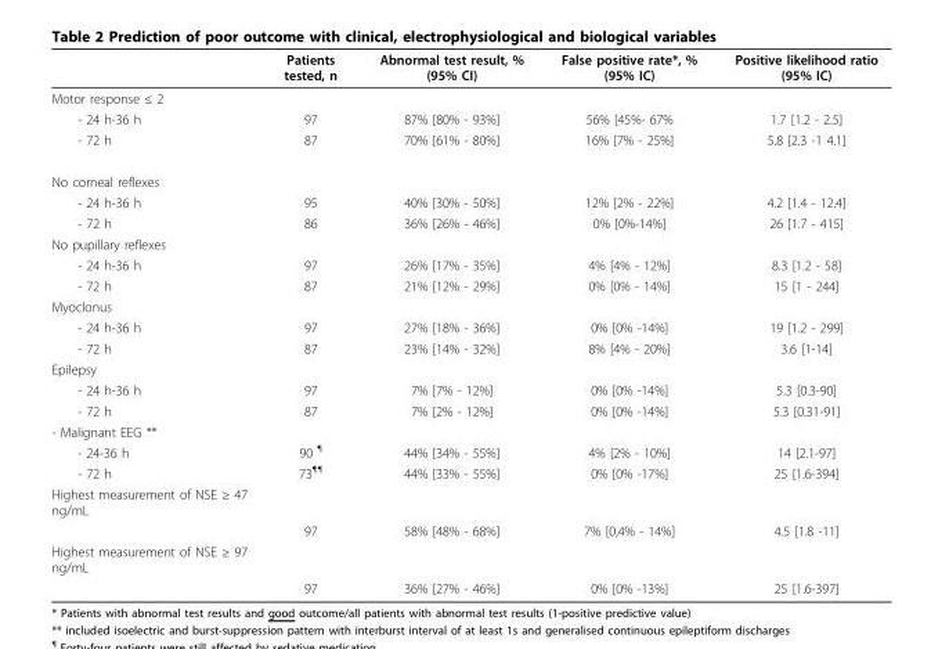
<table><thead><tr><td></td><td>Patients tested, n</td><td>Abnormal test result, % (95% CI)</td><td>False positive rate*, % (95% IC)</td><td>Positive likelihood ratio (95% IC)</td></tr></thead><tbody><tr><td colspan="5">Motor response ≤ 2</td></tr><tr><td>- 24 h-36 h</td><td>97</td><td>87% [80% - 93%]</td><td>56% [45%- 67%</td><td>1.7 [1.2 - 2.5]</td></tr><tr><td>- 72 h</td><td>87</td><td>70% [61% - 80%]</td><td>16% [7% - 25%]</td><td>5.8 [2.3 -1 4.1]</td></tr><tr><td colspan="5">No corneal reflexes</td></tr><tr><td>- 24 h-36 h</td><td>95</td><td>40% [30% - 50%]</td><td>12% [2% - 22%]</td><td>4.2 [1.4 - 12.4]</td></tr><tr><td>- 72 h</td><td>86</td><td>36% [26% - 46%]</td><td>0% [0%-14%]</td><td>26 [1.7 - 415]</td></tr><tr><td colspan="5">No pupillary reflexes</td></tr><tr><td>- 24 h-36 h</td><td>97</td><td>26% [17% - 35%]</td><td>4% [4% - 12%]</td><td>8.3 [1.2 - 58]</td></tr><tr><td>- 72 h</td><td>87</td><td>21% [12% - 29%]</td><td>0% [0% - 14%]</td><td>15 [1 - 244]</td></tr><tr><td colspan="5">Myoclonus</td></tr><tr><td>- 24 h-36 h</td><td>97</td><td>27% [18% - 36%]</td><td>0% [0% -14%]</td><td>19 [1.2 - 299]</td></tr><tr><td>- 72 h</td><td>87</td><td>23% [14% - 32%]</td><td>8% [4% - 20%]</td><td>3.6 [1-14]</td></tr><tr><td colspan="5">Epilepsy</td></tr><tr><td>- 24 h-36 h</td><td>97</td><td>7% [7% - 12%]</td><td>0% [0% -14%]</td><td>5.3 [0.3-90]</td></tr><tr><td>- 72 h</td><td>87</td><td>7% [2% - 12%]</td><td>0% [0% -14%]</td><td>5.3 [0.31-91]</td></tr><tr><td colspan="5">- Malignant EEG **</td></tr><tr><td>- 24-36 h</td><td>90 <sup>¶</sup></td><td>44% [34% - 55%]</td><td>4% [2% - 10%]</td><td>14 [2.1-97]</td></tr><tr><td>- 72 h</td><td>73<sup>¶¶</sup></td><td>44% [33% - 55%]</td><td>0% [0% -17%]</td><td>25 [1.6-394]</td></tr><tr><td colspan="5">Highest measurement of NSE ≥ 47 ng/mL</td></tr><tr><td></td><td>97</td><td>58% [48% - 68%]</td><td>7% [0,4% - 14%]</td><td>4.5 [1.8 -11]</td></tr><tr><td colspan="5">Highest measurement of NSE ≥ 97 ng/mL</td></tr><tr><td></td><td>97</td><td>36% [27% - 46%]</td><td>0% [0% -13%]</td><td>25 [1.6-397]</td></tr></tbody></table>